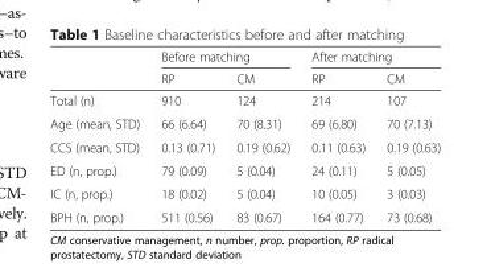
<table><thead><tr><td rowspan="2"></td><td colspan="2">Before matching</td><td colspan="2">After matching</td></tr><tr><td>RP</td><td>CM</td><td>RP</td><td>CM</td></tr></thead><tbody><tr><td>Total (n)</td><td>910</td><td>124</td><td>214</td><td>107</td></tr><tr><td>Age (mean, STD)</td><td>66 (6.64)</td><td>70 (8.31)</td><td>69 (6.80)</td><td>70 (7.13)</td></tr><tr><td>CCS (mean, STD)</td><td>0.13 (0.71)</td><td>0.19 (0.62)</td><td>0.11 (0.63)</td><td>0.19 (0.63)</td></tr><tr><td>ED (n, prop.)</td><td>79 (0.09)</td><td>5 (0.04)</td><td>24 (0.11)</td><td>5 (0.05)</td></tr><tr><td>IC (n, prop.)</td><td>18 (0.02)</td><td>5 (0.04)</td><td>10 (0.05)</td><td>3 (0.03)</td></tr><tr><td>BPH (n, prop.)</td><td>511 (0.56)</td><td>83 (0.67)</td><td>164 (0.77)</td><td>73 (0.68)</td></tr></tbody></table>